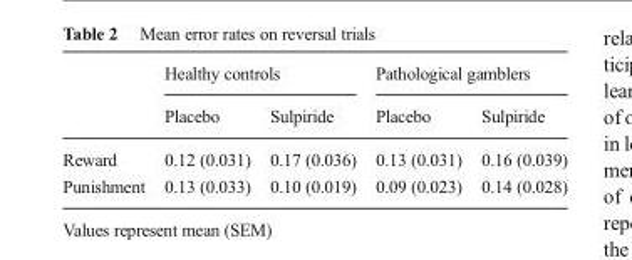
<table><thead><tr><td rowspan="2"></td><td colspan="2">Healthy controls</td><td colspan="2">Pathological gamblers</td></tr><tr><td>Placebo</td><td>Sulpiride</td><td>Placebo</td><td>Sulpiride</td></tr></thead><tbody><tr><td>Reward</td><td>0.12 (0.031)</td><td>0.17 (0.036)</td><td>0.13 (0.031)</td><td>0.16 (0.039)</td></tr><tr><td>Punishment</td><td>0.13 (0.033)</td><td>0.10 (0.019)</td><td>0.09 (0.023)</td><td>0.14 (0.028)</td></tr></tbody></table>